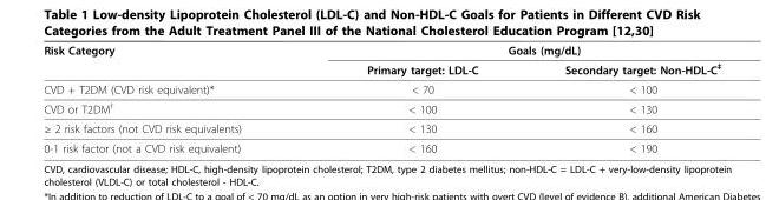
<table><thead><tr><td rowspan="2">Risk Category</td><td colspan="2">Goals (mg/dL)</td></tr><tr><td>Primary target: LDL-C</td><td>Secondary target: Non-HDL-C<sup>‡</sup></td></tr></thead><tbody><tr><td>CVD + T2DM (CVD risk equivalent)*</td><td>&lt; 70</td><td>&lt; 100</td></tr><tr><td>CVD or T2DM<sup>†</sup></td><td>&lt; 100</td><td>&lt; 130</td></tr><tr><td>≥ 2 risk factors (not CVD risk equivalents)</td><td>&lt; 130</td><td>&lt; 160</td></tr><tr><td>0-1 risk factor (not a CVD risk equivalent)</td><td>&lt; 160</td><td>&lt; 190</td></tr></tbody></table>